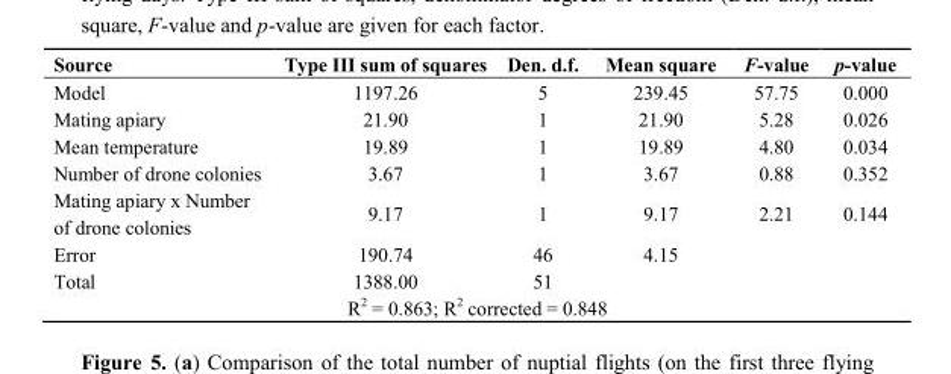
<table><thead><tr><td>Source</td><td>Type III sum of squares</td><td>Den. d.f.</td><td>Mean square</td><td>F-value</td><td>p-value</td></tr></thead><tbody><tr><td>Model</td><td>1197.26</td><td>5</td><td>239.45</td><td>57.75</td><td>0.000</td></tr><tr><td>Mating apiary</td><td>21.90</td><td>1</td><td>21.90</td><td>5.28</td><td>0.026</td></tr><tr><td>Mean temperature</td><td>19.89</td><td>1</td><td>19.89</td><td>4.80</td><td>0.034</td></tr><tr><td>Number of drone colonies</td><td>3.67</td><td>1</td><td>3.67</td><td>0.88</td><td>0.352</td></tr><tr><td>Mating apiary x Number of drone colonies</td><td>9.17</td><td>1</td><td>9.17</td><td>2.21</td><td>0.144</td></tr><tr><td>Error</td><td>190.74</td><td>46</td><td>4.15</td><td></td><td></td></tr><tr><td>Total</td><td>1388.00</td><td>51</td><td></td><td></td><td></td></tr><tr><td colspan="6">R<sup>2</sup> = 0.863; R<sup>2</sup> corrected = 0.848</td></tr></tbody></table>